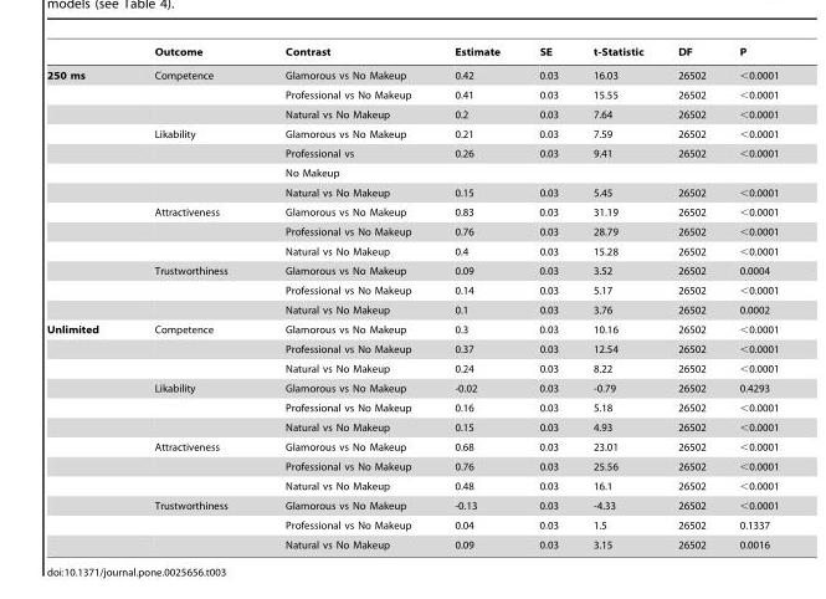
<table><thead><tr><td></td><td>Outcome</td><td>Contrast</td><td>Estimate</td><td>SE</td><td>t-Statistic</td><td>DF</td><td>P</td></tr></thead><tbody><tr><td rowspan="13">250 ms</td><td>Competence</td><td>Glamorous vs No Makeup</td><td>0.42</td><td>0.03</td><td>16.03</td><td>26502</td><td>&lt;0.0001</td></tr><tr><td></td><td>Professional vs No Makeup</td><td>0.41</td><td>0.03</td><td>15.55</td><td>26502</td><td>&lt;0.0001</td></tr><tr><td></td><td>Natural vs No Makeup</td><td>0.2</td><td>0.03</td><td>7.64</td><td>26502</td><td>&lt;0.0001</td></tr><tr><td>Likability</td><td>Glamorous vs No Makeup</td><td>0.21</td><td>0.03</td><td>7.59</td><td>26502</td><td>&lt;0.0001</td></tr><tr><td></td><td>Professional vs</td><td>0.26</td><td>0.03</td><td>9.41</td><td>26502</td><td>&lt;0.0001</td></tr><tr><td></td><td>No Makeup</td><td></td><td></td><td></td><td></td><td></td></tr><tr><td></td><td>Natural vs No Makeup</td><td>0.15</td><td>0.03</td><td>5.45</td><td>26502</td><td>&lt;0.0001</td></tr><tr><td>Attractiveness</td><td>Glamorous vs No Makeup</td><td>0.83</td><td>0.03</td><td>31.19</td><td>26502</td><td>&lt;0.0001</td></tr><tr><td></td><td>Professional vs No Makeup</td><td>0.76</td><td>0.03</td><td>28.79</td><td>26502</td><td>&lt;0.0001</td></tr><tr><td></td><td>Natural vs No Makeup</td><td>0.4</td><td>0.03</td><td>15.28</td><td>26502</td><td>&lt;0.0001</td></tr><tr><td>Trustworthiness</td><td>Glamorous vs No Makeup</td><td>0.09</td><td>0.03</td><td>3.52</td><td>26502</td><td>0.0004</td></tr><tr><td></td><td>Professional vs No Makeup</td><td>0.14</td><td>0.03</td><td>5.17</td><td>26502</td><td>&lt;0.0001</td></tr><tr><td></td><td>Natural vs No Makeup</td><td>0.1</td><td>0.03</td><td>3.76</td><td>26502</td><td>0.0002</td></tr><tr><td rowspan="12">Unlimited</td><td>Competence</td><td>Glamorous vs No Makeup</td><td>0.3</td><td>0.03</td><td>10.16</td><td>26502</td><td>&lt;0.0001</td></tr><tr><td></td><td>Professional vs No Makeup</td><td>0.37</td><td>0.03</td><td>12.54</td><td>26502</td><td>&lt;0.0001</td></tr><tr><td></td><td>Natural vs No Makeup</td><td>0.24</td><td>0.03</td><td>8.22</td><td>26502</td><td>&lt;0.0001</td></tr><tr><td>Likability</td><td>Glamorous vs No Makeup</td><td>-0.02</td><td>0.03</td><td>-0.79</td><td>26502</td><td>0.4293</td></tr><tr><td></td><td>Professional vs No Makeup</td><td>0.16</td><td>0.03</td><td>5.18</td><td>26502</td><td>&lt;0.0001</td></tr><tr><td></td><td>Natural vs No Makeup</td><td>0.15</td><td>0.03</td><td>4.93</td><td>26502</td><td>&lt;0.0001</td></tr><tr><td>Attractiveness</td><td>Glamorous vs No Makeup</td><td>0.68</td><td>0.03</td><td>23.01</td><td>26502</td><td>&lt;0.0001</td></tr><tr><td></td><td>Professional vs No Makeup</td><td>0.76</td><td>0.03</td><td>25.56</td><td>26502</td><td>&lt;0.0001</td></tr><tr><td></td><td>Natural vs No Makeup</td><td>0.48</td><td>0.03</td><td>16.1</td><td>26502</td><td>&lt;0.0001</td></tr><tr><td>Trustworthiness</td><td>Glamorous vs No Makeup</td><td>-0.13</td><td>0.03</td><td>-4.33</td><td>26502</td><td>&lt;0.0001</td></tr><tr><td></td><td>Professional vs No Makeup</td><td>0.04</td><td>0.03</td><td>1.5</td><td>26502</td><td>0.1337</td></tr><tr><td></td><td>Natural vs No Makeup</td><td>0.09</td><td>0.03</td><td>3.15</td><td>26502</td><td>0.0016</td></tr></tbody></table>